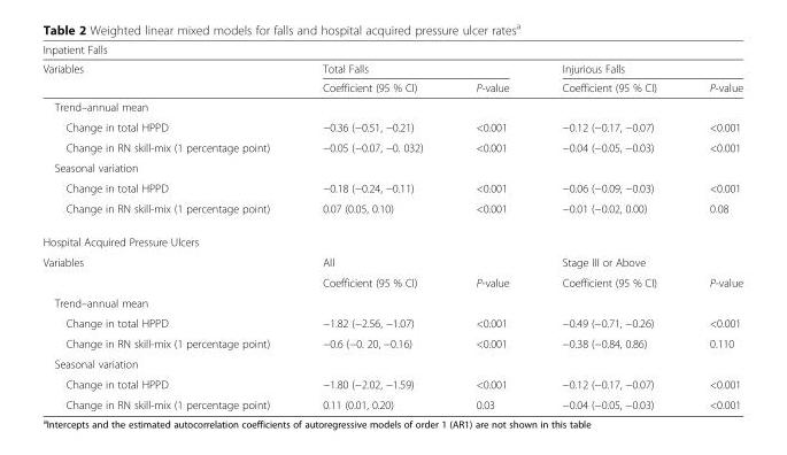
<table><thead><tr><td colspan="5">Inpatient Falls</td></tr><tr><td rowspan="2">Variables</td><td colspan="2">Total Falls</td><td colspan="2">Injurious Falls</td></tr><tr><td>Coefficient (95 % CI)</td><td>P-value</td><td>Coefficient (95 % CI)</td><td>P-value</td></tr></thead><tbody><tr><td colspan="5">Trend–annual mean</td></tr><tr><td>Change in total HPPD</td><td>−0.36 (−0.51, −0.21)</td><td>&lt;0.001</td><td>−0.12 (−0.17, −0.07)</td><td>&lt;0.001</td></tr><tr><td>Change in RN skill-mix (1 percentage point)</td><td>−0.05 (−0.07, −0. 032)</td><td>&lt;0.001</td><td>−0.04 (−0.05, −0.03)</td><td>&lt;0.001</td></tr><tr><td colspan="5">Seasonal variation</td></tr><tr><td>Change in total HPPD</td><td>−0.18 (−0.24, −0.11)</td><td>&lt;0.001</td><td>−0.06 (−0.09, −0.03)</td><td>&lt;0.001</td></tr><tr><td>Change in RN skill-mix (1 percentage point)</td><td>0.07 (0.05, 0.10)</td><td>&lt;0.001</td><td>−0.01 (−0.02, 0.00)</td><td>0.08</td></tr><tr><td colspan="5">Hospital Acquired Pressure Ulcers</td></tr><tr><td rowspan="2">Variables</td><td colspan="2">All</td><td colspan="2">Stage III or Above</td></tr><tr><td>Coefficient (95 % CI)</td><td>P-value</td><td>Coefficient (95 % CI)</td><td>P-value</td></tr><tr><td colspan="5">Trend–annual mean</td></tr><tr><td>Change in total HPPD</td><td>−1.82 (−2.56, −1.07)</td><td>&lt;0.001</td><td>−0.49 (−0.71, −0.26)</td><td>&lt;0.001</td></tr><tr><td>Change in RN skill-mix (1 percentage point)</td><td>−0.6 (−0. 20, −0.16)</td><td>&lt;0.001</td><td>−0.38 (−0.84, 0.86)</td><td>0.110</td></tr><tr><td colspan="5">Seasonal variation</td></tr><tr><td>Change in total HPPD</td><td>−1.80 (−2.02, −1.59)</td><td>&lt;0.001</td><td>−0.12 (−0.17, −0.07)</td><td>&lt;0.001</td></tr><tr><td>Change in RN skill-mix (1 percentage point)</td><td>0.11 (0.01, 0.20)</td><td>0.03</td><td>−0.04 (−0.05, −0.03)</td><td>&lt;0.001</td></tr></tbody></table>